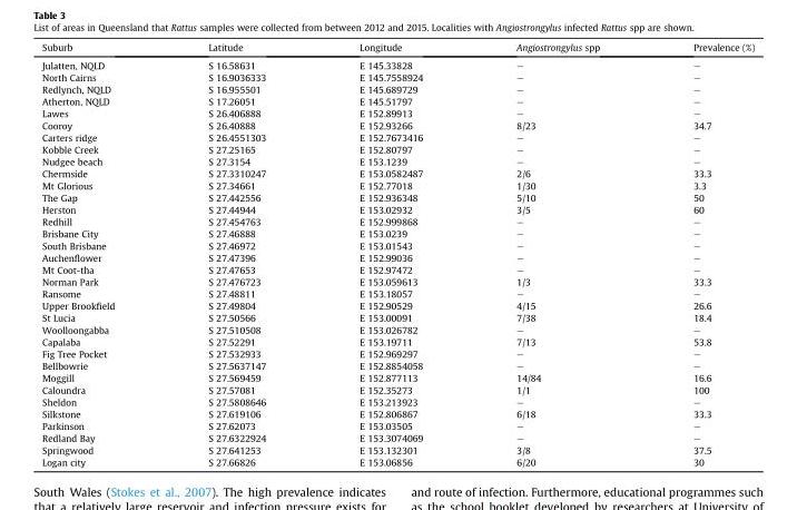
<table><thead><tr><td>Suburb</td><td>Latitude</td><td>Longitude</td><td>Angiostrongylus spp</td><td>Prevalence (%)</td></tr></thead><tbody><tr><td>Julatten, NQLD</td><td>S 16.58631</td><td>E 145.33828</td><td>–</td><td>–</td></tr><tr><td>North Cairns</td><td>S 16.9036333</td><td>E 145.7558924</td><td>–</td><td>–</td></tr><tr><td>Redlynch, NQLD</td><td>S 16.955501</td><td>E 145.689729</td><td>–</td><td>–</td></tr><tr><td>Atherton, NQLD</td><td>S 17.26051</td><td>E 145.51797</td><td>–</td><td>–</td></tr><tr><td>Lawes</td><td>S 26.406888</td><td>E 152.89913</td><td>–</td><td>–</td></tr><tr><td>Cooroy</td><td>S 26.40888</td><td>E 152.93266</td><td>8/23</td><td>34.7</td></tr><tr><td>Carters ridge</td><td>S 26.4551303</td><td>E 152.7673416</td><td>–</td><td>–</td></tr><tr><td>Kobble Creek</td><td>S 27.25165</td><td>E 152.80797</td><td>–</td><td>–</td></tr><tr><td>Nudgee beach</td><td>S 27.3154</td><td>E 153.1239</td><td>–</td><td>–</td></tr><tr><td>Chermside</td><td>S 27.3310247</td><td>E 153.0582487</td><td>2/6</td><td>33.3</td></tr><tr><td>Mt Glorious</td><td>S 27.34661</td><td>E 152.77018</td><td>1/30</td><td>3.3</td></tr><tr><td>The Gap</td><td>S 27.442556</td><td>E 152.936348</td><td>5/10</td><td>50</td></tr><tr><td>Herston</td><td>S 27.44944</td><td>E 153.02932</td><td>3/5</td><td>60</td></tr><tr><td>Redhill</td><td>S 27.454763</td><td>E 152.999868</td><td>–</td><td>–</td></tr><tr><td>Brisbane City</td><td>S 27.46888</td><td>E 153.0239</td><td>–</td><td>–</td></tr><tr><td>South Brisbane</td><td>S 27.46972</td><td>E 153.01543</td><td>–</td><td>–</td></tr><tr><td>Auchenflower</td><td>S 27.47396</td><td>E 152.99036</td><td>–</td><td>–</td></tr><tr><td>Mt Coot-tha</td><td>S 27.47653</td><td>E 152.97472</td><td>–</td><td>–</td></tr><tr><td>Norman Park</td><td>S 27.476723</td><td>E 153.059613</td><td>1/3</td><td>33.3</td></tr><tr><td>Ransome</td><td>S 27.48811</td><td>E 153.18057</td><td>–</td><td>–</td></tr><tr><td>Upper Brookfield</td><td>S 27.49804</td><td>E 152.90529</td><td>4/15</td><td>26.6</td></tr><tr><td>St Lucia</td><td>S 27.50566</td><td>E 153.00091</td><td>7/38</td><td>18.4</td></tr><tr><td>Woolloongabba</td><td>S 27.510508</td><td>E 153.026782</td><td>–</td><td>–</td></tr><tr><td>Capalaba</td><td>S 27.52291</td><td>E 153.19711</td><td>7/13</td><td>53.8</td></tr><tr><td>Fig Tree Pocket</td><td>S 27.532933</td><td>E 152.969297</td><td>–</td><td>–</td></tr><tr><td>Bellbowrie</td><td>S 27.5637147</td><td>E 152.8854058</td><td>–</td><td>–</td></tr><tr><td>Moggill</td><td>S 27.569459</td><td>E 152.877113</td><td>14/84</td><td>16.6</td></tr><tr><td>Caloundra</td><td>S 27.57081</td><td>E 152.35273</td><td>1/1</td><td>100</td></tr><tr><td>Sheldon</td><td>S 27.5808646</td><td>E 153.213923</td><td>–</td><td>–</td></tr><tr><td>Silkstone</td><td>S 27.619106</td><td>E 152.806867</td><td>6/18</td><td>33.3</td></tr><tr><td>Parkinson</td><td>S 27.62073</td><td>E 153.03505</td><td>–</td><td>–</td></tr><tr><td>Redland Bay</td><td>S 27.6322924</td><td>E 153.3074069</td><td>–</td><td>–</td></tr><tr><td>Springwood</td><td>S 27.641253</td><td>E 153.132301</td><td>3/8</td><td>37.5</td></tr><tr><td>Logan city</td><td>S 27.66826</td><td>E 153.06856</td><td>6/20</td><td>30</td></tr></tbody></table>